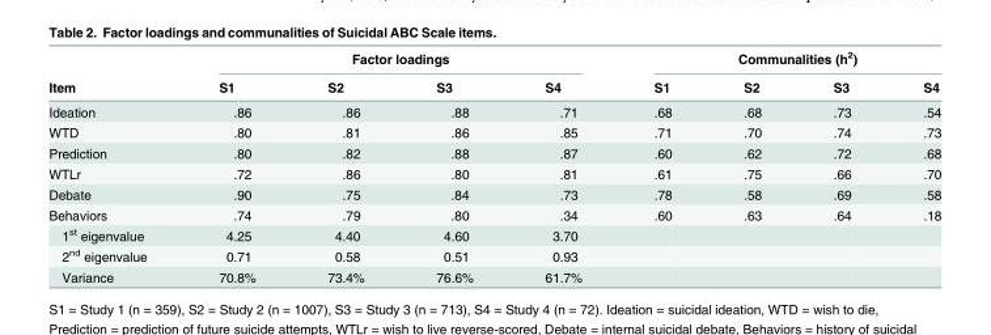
<table><thead><tr><td rowspan="2">Item</td><td colspan="4">Factor loadings</td><td colspan="4">Communalities (h<sup>2</sup>)</td></tr><tr><td>S1</td><td>S2</td><td>S3</td><td>S4</td><td>S1</td><td>S2</td><td>S3</td><td>S4</td></tr></thead><tbody><tr><td>Ideation</td><td>.86</td><td>.86</td><td>.88</td><td>.71</td><td>.68</td><td>.68</td><td>.73</td><td>.54</td></tr><tr><td>WTD</td><td>.80</td><td>.81</td><td>.86</td><td>.85</td><td>.71</td><td>.70</td><td>.74</td><td>.73</td></tr><tr><td>Prediction</td><td>.80</td><td>.82</td><td>.88</td><td>.87</td><td>.60</td><td>.62</td><td>.72</td><td>.68</td></tr><tr><td>WTLr</td><td>.72</td><td>.86</td><td>.80</td><td>.81</td><td>.61</td><td>.75</td><td>.66</td><td>.70</td></tr><tr><td>Debate</td><td>.90</td><td>.75</td><td>.84</td><td>.73</td><td>.78</td><td>.58</td><td>.69</td><td>.58</td></tr><tr><td>Behaviors</td><td>.74</td><td>.79</td><td>.80</td><td>.34</td><td>.60</td><td>.63</td><td>.64</td><td>.18</td></tr><tr><td>1<sup>st</sup> eigenvalue</td><td>4.25</td><td>4.40</td><td>4.60</td><td>3.70</td><td></td><td></td><td></td><td></td></tr><tr><td>2<sup>nd</sup> eigenvalue</td><td>0.71</td><td>0.58</td><td>0.51</td><td>0.93</td><td></td><td></td><td></td><td></td></tr><tr><td>Variance</td><td>70.8%</td><td>73.4%</td><td>76.6%</td><td>61.7%</td><td></td><td></td><td></td><td></td></tr></tbody></table>